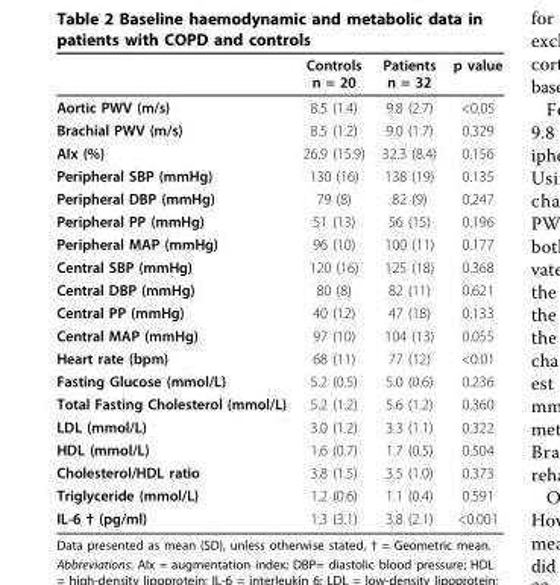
<table><thead><tr><td></td><td>Controls n = 20</td><td>Patients n = 32</td><td>p value</td></tr></thead><tbody><tr><td>Aortic PWV (m/s)</td><td>8.5 (1.4)</td><td>9.8 (2.7)</td><td>&lt;0.05</td></tr><tr><td>Brachial PWV (m/s)</td><td>8.5 (1.2)</td><td>9.0 (1.7)</td><td>0.329</td></tr><tr><td>AIx (%)</td><td>26.9 (15.9)</td><td>32.3 (8.4)</td><td>0.156</td></tr><tr><td>Peripheral SBP (mmHg)</td><td>130 (16)</td><td>138 (19)</td><td>0.135</td></tr><tr><td>Peripheral DBP (mmHg)</td><td>79 (8)</td><td>82 (9)</td><td>0.247</td></tr><tr><td>Peripheral PP (mmHg)</td><td>51 (13)</td><td>56 (15)</td><td>0.196</td></tr><tr><td>Peripheral MAP (mmHg)</td><td>96 (10)</td><td>100 (11)</td><td>0.177</td></tr><tr><td>Central SBP (mmHg)</td><td>120 (16)</td><td>125 (18)</td><td>0.368</td></tr><tr><td>Central DBP (mmHg)</td><td>80 (8)</td><td>82 (11)</td><td>0.621</td></tr><tr><td>Central PP (mmHg)</td><td>40 (12)</td><td>47 (18)</td><td>0.133</td></tr><tr><td>Central MAP (mmHg)</td><td>97 (10)</td><td>104 (13)</td><td>0.055</td></tr><tr><td>Heart rate (bpm)</td><td>68 (11)</td><td>77 (12)</td><td>&lt;0.01</td></tr><tr><td>Fasting Glucose (mmol/L)</td><td>5.2 (0.5)</td><td>5.0 (0.6)</td><td>0.236</td></tr><tr><td>Total Fasting Cholesterol (mmol/L)</td><td>5.2 (1.2)</td><td>5.6 (1.2)</td><td>0.360</td></tr><tr><td>LDL (mmol/L)</td><td>3.0 (1.2)</td><td>3.3 (1.1)</td><td>0.322</td></tr><tr><td>HDL (mmol/L)</td><td>1.6 (0.7)</td><td>1.7 (0.5)</td><td>0.504</td></tr><tr><td>Cholesterol/HDL ratio</td><td>3.8 (1.5)</td><td>3.5 (1.0)</td><td>0.373</td></tr><tr><td>Triglyceride (mmol/L)</td><td>1.2 (0.6)</td><td>1.1 (0.4)</td><td>0.591</td></tr><tr><td>IL-6 † (pg/ml)</td><td>1.3 (3.1)</td><td>3.8 (2.1)</td><td>&lt;0.001</td></tr></tbody></table>